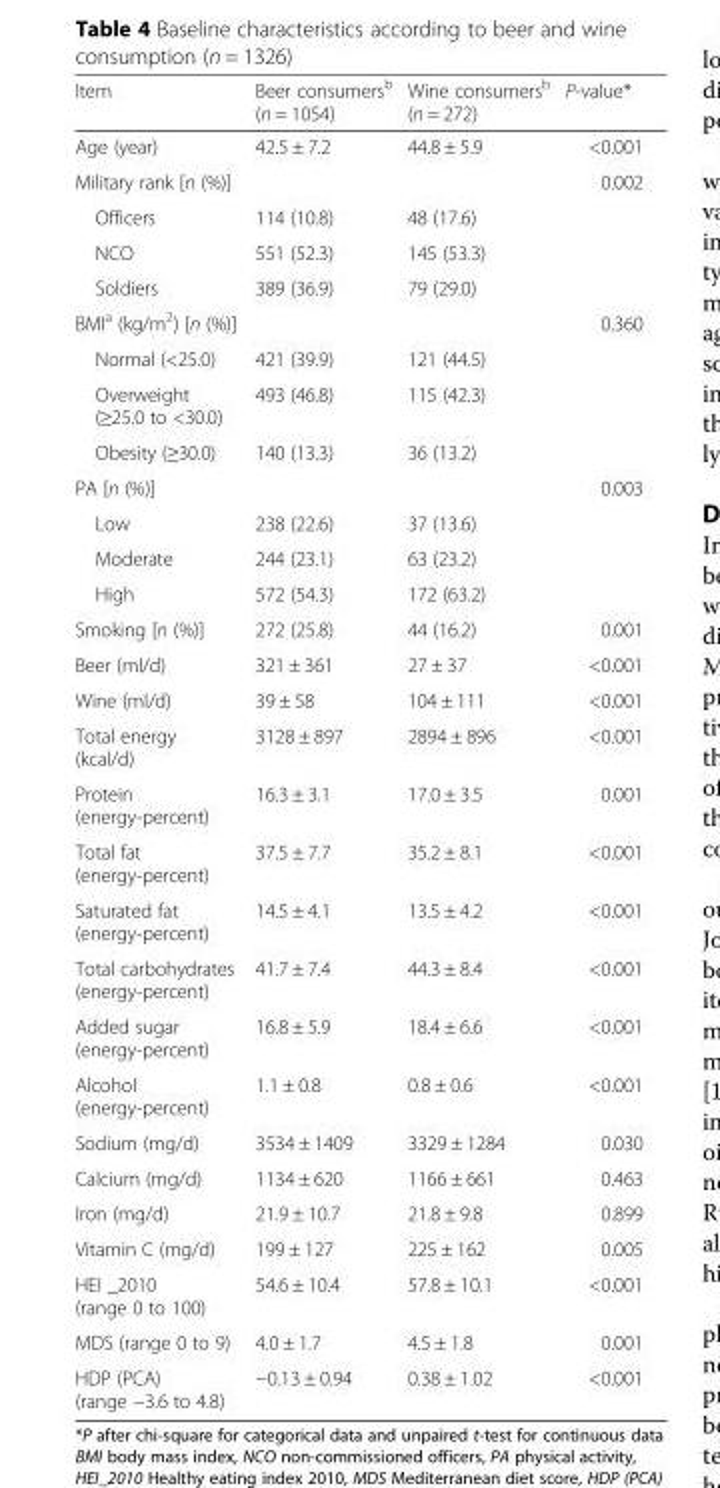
<table><thead><tr><td>Item</td><td>Beer consumers<sup>b</sup> (n = 1054)</td><td>Wine consumers<sup>b</sup> (n = 272)</td><td>P-value*</td></tr></thead><tbody><tr><td>Age (year)</td><td>42.5 ± 7.2</td><td>44.8 ± 5.9</td><td>&lt;0.001</td></tr><tr><td>Military rank [n (%)]</td><td></td><td></td><td>0.002</td></tr><tr><td>Officers</td><td>114 (10.8)</td><td>48 (17.6)</td><td rowspan="3"></td></tr><tr><td>NCO</td><td>551 (52.3)</td><td>145 (53.3)</td></tr><tr><td>Soldiers</td><td>389 (36.9)</td><td>79 (29.0)</td></tr><tr><td>BMI<sup>a</sup> (kg/m<sup>2</sup>) [n (%)]</td><td></td><td></td><td>0.360</td></tr><tr><td>Normal (&lt;25.0)</td><td>421 (39.9)</td><td>121 (44.5)</td><td rowspan="3"></td></tr><tr><td>Overweight (≥25.0 to &lt;30.0)</td><td>493 (46.8)</td><td>115 (42.3)</td></tr><tr><td>Obesity (≥30.0)</td><td>140 (13.3)</td><td>36 (13.2)</td></tr><tr><td>PA [n (%)]</td><td></td><td></td><td>0.003</td></tr><tr><td>Low</td><td>238 (22.6)</td><td>37 (13.6)</td><td rowspan="3"></td></tr><tr><td>Moderate</td><td>244 (23.1)</td><td>63 (23.2)</td></tr><tr><td>High</td><td>572 (54.3)</td><td>172 (63.2)</td></tr><tr><td>Smoking [n (%)]</td><td>272 (25.8)</td><td>44 (16.2)</td><td>0.001</td></tr><tr><td>Beer (ml/d)</td><td>321 ± 361</td><td>27 ± 37</td><td>&lt;0.001</td></tr><tr><td>Wine (ml/d)</td><td>39 ± 58</td><td>104 ± 111</td><td>&lt;0.001</td></tr><tr><td>Total energy (kcal/d)</td><td>3128 ± 897</td><td>2894 ± 896</td><td>&lt;0.001</td></tr><tr><td>Protein (energy-percent)</td><td>16.3 ± 3.1</td><td>17.0 ± 3.5</td><td>0.001</td></tr><tr><td>Total fat (energy-percent)</td><td>37.5 ± 7.7</td><td>35.2 ± 8.1</td><td>&lt;0.001</td></tr><tr><td>Saturated fat (energy-percent)</td><td>14.5 ± 4.1</td><td>13.5 ± 4.2</td><td>&lt;0.001</td></tr><tr><td>Total carbohydrates (energy-percent)</td><td>41.7 ± 7.4</td><td>44.3 ± 8.4</td><td>&lt;0.001</td></tr><tr><td>Added sugar (energy-percent)</td><td>16.8 ± 5.9</td><td>18.4 ± 6.6</td><td>&lt;0.001</td></tr><tr><td>Alcohol (energy-percent)</td><td>1.1 ± 0.8</td><td>0.8 ± 0.6</td><td>&lt;0.001</td></tr><tr><td>Sodium (mg/d)</td><td>3534 ± 1409</td><td>3329 ± 1284</td><td>0.030</td></tr><tr><td>Calcium (mg/d)</td><td>1134 ± 620</td><td>1166 ± 661</td><td>0.463</td></tr><tr><td>Iron (mg/d)</td><td>21.9 ± 10.7</td><td>21.8 ± 9.8</td><td>0.899</td></tr><tr><td>Vitamin C (mg/d)</td><td>199 ± 127</td><td>225 ± 162</td><td>0.005</td></tr><tr><td>HEI _2010 (range 0 to 100)</td><td>54.6 ± 10.4</td><td>57.8 ± 10.1</td><td>&lt;0.001</td></tr><tr><td>MDS (range 0 to 9)</td><td>4.0 ± 1.7</td><td>4.5 ± 1.8</td><td>0.001</td></tr><tr><td>HDP (PCA) (range −3.6 to 4.8)</td><td>−0.13 ± 0.94</td><td>0.38 ± 1.02</td><td>&lt;0.001</td></tr></tbody></table>